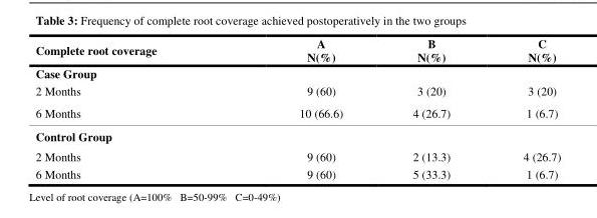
<table><thead><tr><td>Complete root coverage</td><td>A N(%)</td><td>B N(%)</td><td>C N(%)</td></tr></thead><tbody><tr><td colspan="4">Case Group</td></tr><tr><td>2 Months</td><td>9 (60)</td><td>3 (20)</td><td>3 (20)</td></tr><tr><td>6 Months</td><td>10 (66.6)</td><td>4 (26.7)</td><td>1 (6.7)</td></tr><tr><td colspan="4">Control Group</td></tr><tr><td>2 Months</td><td>9 (60)</td><td>2 (13.3)</td><td>4 (26.7)</td></tr><tr><td>6 Months</td><td>9 (60)</td><td>5 (33.3)</td><td>1 (6.7)</td></tr></tbody></table>